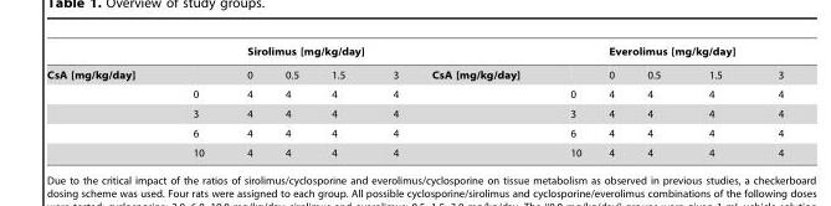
<table><thead><tr><td rowspan="2">CsA [mg/kg/day]</td><td rowspan="2"></td><td colspan="3">Sirolimus [mg/kg/day]</td><td rowspan="2">3</td><td rowspan="2">CsA [mg/kg/day]</td><td rowspan="2"></td><td colspan="3">Everolimus [mg/kg/day]</td><td rowspan="2">3</td></tr><tr><td>0</td><td>0.5</td><td>1.5</td><td>0</td><td>0.5</td><td>1.5</td></tr></thead><tbody><tr><td></td><td>0</td><td>4</td><td>4</td><td>4</td><td>4</td><td></td><td>0</td><td>4</td><td>4</td><td>4</td><td>4</td></tr><tr><td></td><td>3</td><td>4</td><td>4</td><td>4</td><td>4</td><td></td><td>3</td><td>4</td><td>4</td><td>4</td><td>4</td></tr><tr><td></td><td>6</td><td>4</td><td>4</td><td>4</td><td>4</td><td></td><td>6</td><td>4</td><td>4</td><td>4</td><td>4</td></tr><tr><td></td><td>10</td><td>4</td><td>4</td><td>4</td><td>4</td><td></td><td>10</td><td>4</td><td>4</td><td>4</td><td>4</td></tr></tbody></table>